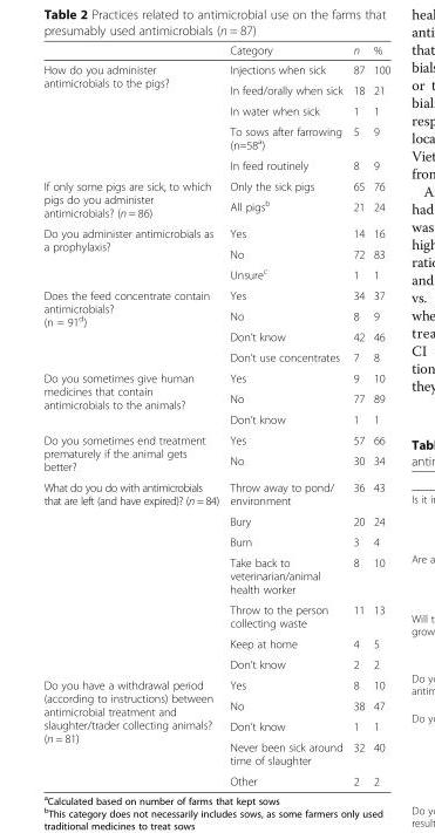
<table><thead><tr><td></td><td>Category</td><td>n</td><td>%</td></tr></thead><tbody><tr><td rowspan="5">How do you administer antimicrobials to the pigs?</td><td>Injections when sick</td><td>87</td><td>100</td></tr><tr><td>In feed/orally when sick</td><td>18</td><td>21</td></tr><tr><td>In water when sick</td><td>1</td><td>1</td></tr><tr><td>To sows after farrowing (n=58<sup>a</sup>)</td><td>5</td><td>9</td></tr><tr><td>In feed routinely</td><td>8</td><td>9</td></tr><tr><td rowspan="2">If only some pigs are sick, to which pigs do you administer antimicrobials? (n = 86)</td><td>Only the sick pigs</td><td>65</td><td>76</td></tr><tr><td>All pigs<sup>b</sup></td><td>21</td><td>24</td></tr><tr><td rowspan="3">Do you administer antimicrobials as a prophylaxis?</td><td>Yes</td><td>14</td><td>16</td></tr><tr><td>No</td><td>72</td><td>83</td></tr><tr><td>Unsure<sup>c</sup></td><td>1</td><td>1</td></tr><tr><td rowspan="4">Does the feed concentrate contain antimicrobials? (n = 91<sup>d</sup>)</td><td>Yes</td><td>34</td><td>37</td></tr><tr><td>No</td><td>8</td><td>9</td></tr><tr><td>Don’t know</td><td>42</td><td>46</td></tr><tr><td>Don’t use concentrates</td><td>7</td><td>8</td></tr><tr><td rowspan="3">Do you sometimes give human medicines that contain antimicrobials to the animals?</td><td>Yes</td><td>9</td><td>10</td></tr><tr><td>No</td><td>77</td><td>89</td></tr><tr><td>Don’t know</td><td>1</td><td>1</td></tr><tr><td rowspan="2">Do you sometimes end treatment prematurely if the animal gets better?</td><td>Yes</td><td>57</td><td>66</td></tr><tr><td>No</td><td>30</td><td>34</td></tr><tr><td rowspan="7">What do you do with antimicrobials that are left (and have expired)? (n = 84)</td><td>Throw away to pond/ environment</td><td>36</td><td>43</td></tr><tr><td>Bury</td><td>20</td><td>24</td></tr><tr><td>Burn</td><td>3</td><td>4</td></tr><tr><td>Take back to veterinarian/animal health worker</td><td>8</td><td>10</td></tr><tr><td>Throw to the person collecting waste</td><td>11</td><td>13</td></tr><tr><td>Keep at home</td><td>4</td><td>5</td></tr><tr><td>Don’t know</td><td>2</td><td>2</td></tr><tr><td rowspan="5">Do you have a withdrawal period (according to instructions) between antimicrobial treatment and slaughter/trader collecting animals? (n = 81)</td><td>Yes</td><td>8</td><td>10</td></tr><tr><td>No</td><td>38</td><td>47</td></tr><tr><td>Don’t know</td><td>1</td><td>1</td></tr><tr><td>Never been sick around time of slaughter</td><td>32</td><td>40</td></tr><tr><td>Other</td><td>2</td><td>2</td></tr></tbody></table>